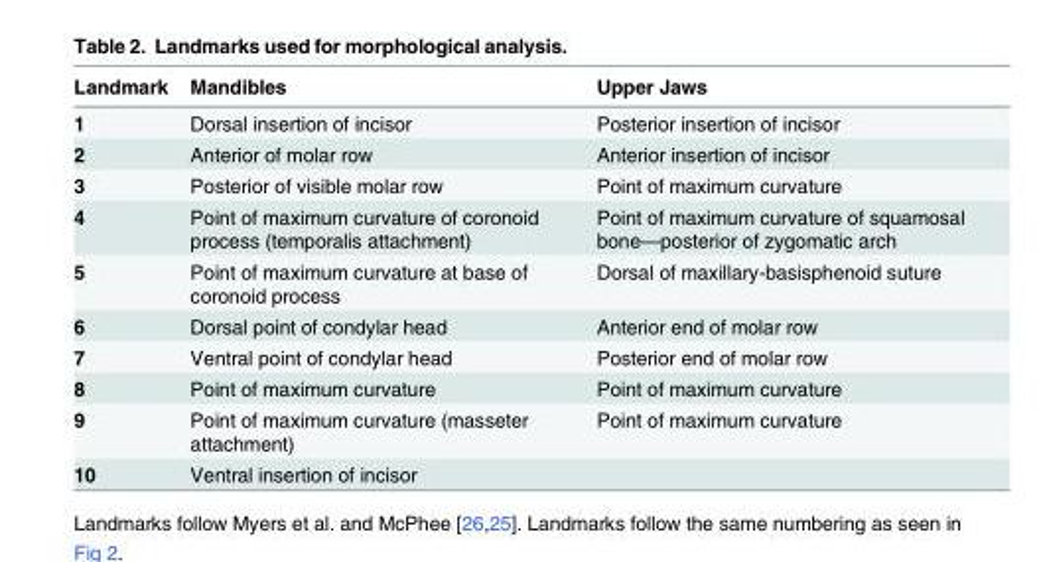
<table><thead><tr><td>Landmark</td><td>Mandibles</td><td>Upper Jaws</td></tr></thead><tbody><tr><td>1</td><td>Dorsal insertion of incisor</td><td>Posterior insertion of incisor</td></tr><tr><td>2</td><td>Anterior of molar row</td><td>Anterior insertion of incisor</td></tr><tr><td>3</td><td>Posterior of visible molar row</td><td>Point of maximum curvature</td></tr><tr><td>4</td><td>Point of maximum curvature of coronoid process (temporalis attachment)</td><td>Point of maximum curvature of squamosal bone—posterior of zygomatic arch</td></tr><tr><td>5</td><td>Point of maximum curvature at base of coronoid process</td><td>Dorsal of maxillary-basisphenoid suture</td></tr><tr><td>6</td><td>Dorsal point of condylar head</td><td>Anterior end of molar row</td></tr><tr><td>7</td><td>Ventral point of condylar head</td><td>Posterior end of molar row</td></tr><tr><td>8</td><td>Point of maximum curvature</td><td>Point of maximum curvature</td></tr><tr><td>9</td><td>Point of maximum curvature (masseter attachment)</td><td>Point of maximum curvature</td></tr><tr><td>10</td><td>Ventral insertion of incisor</td><td></td></tr></tbody></table>